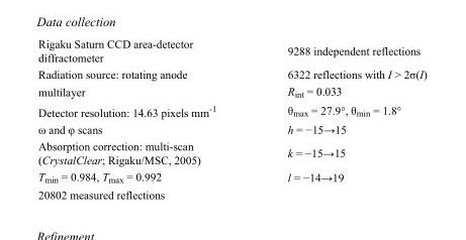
<table><tbody><tr><td>Rigaku Saturn CCD area-detector diffractometer</td><td>9288 independent reflections</td></tr><tr><td>Radiation source: rotating anode</td><td>6322 reflections with I &gt; 2σ(I)</td></tr><tr><td>multilayer</td><td>R<sub>int</sub> = 0.033</td></tr><tr><td>Detector resolution: 14.63 pixels mm<sup>-1</sup></td><td>θ<sub>max</sub> = 27.9°, θ<sub>min</sub> = 1.8°</td></tr><tr><td>ω and φ scans</td><td>h = −15→15</td></tr><tr><td>Absorption correction: multi-scan (CrystalClear; Rigaku/MSC, 2005)</td><td>k = −15→15</td></tr><tr><td>T<sub>min</sub> = 0.984, T<sub>max</sub> = 0.992</td><td>l = −14→19</td></tr><tr><td>20802 measured reflections</td><td></td></tr></tbody></table>